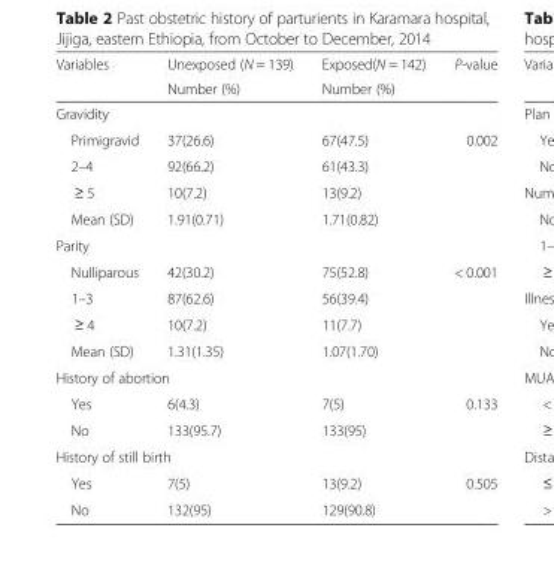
<table><thead><tr><td rowspan="2">Variables</td><td rowspan="2">Unexposed (N = 139) Number (%)</td><td rowspan="2">Exposed(N = 142) Number (%)</td><td rowspan="2">P-value</td></tr><tr></tr></thead><tbody><tr><td colspan="4">Gravidity</td></tr><tr><td>Primigravid</td><td>37(26.6)</td><td>67(47.5)</td><td>0.002</td></tr><tr><td>2–4</td><td>92(66.2)</td><td>61(43.3)</td><td></td></tr><tr><td>≥ 5</td><td>10(7.2)</td><td>13(9.2)</td><td></td></tr><tr><td>Mean (SD)</td><td>1.91(0.71)</td><td>1.71(0.82)</td><td></td></tr><tr><td colspan="4">Parity</td></tr><tr><td>Nulliparous</td><td>42(30.2)</td><td>75(52.8)</td><td>&lt; 0.001</td></tr><tr><td>1–3</td><td>87(62.6)</td><td>56(39.4)</td><td></td></tr><tr><td>≥ 4</td><td>10(7.2)</td><td>11(7.7)</td><td></td></tr><tr><td>Mean (SD)</td><td>1.31(1.35)</td><td>1.07(1.70)</td><td></td></tr><tr><td colspan="4">History of abortion</td></tr><tr><td>Yes</td><td>6(4.3)</td><td>7(5)</td><td>0.133</td></tr><tr><td>No</td><td>133(95.7)</td><td>133(95)</td><td></td></tr><tr><td colspan="4">History of still birth</td></tr><tr><td>Yes</td><td>7(5)</td><td>13(9.2)</td><td>0.505</td></tr><tr><td>No</td><td>132(95)</td><td>129(90.8)</td><td></td></tr></tbody></table>